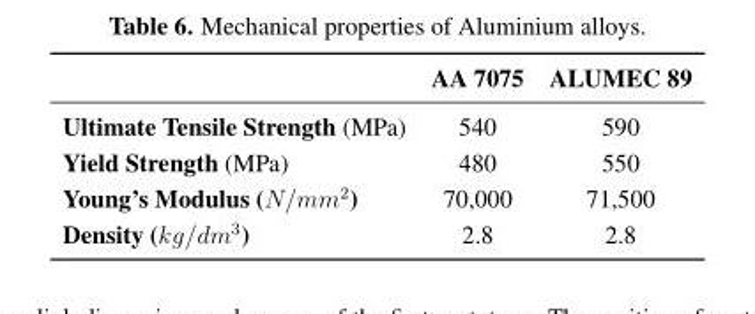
<table><thead><tr><td></td><td>AA 7075</td><td>ALUMEC 89</td></tr></thead><tbody><tr><td>Ultimate Tensile Strength (MPa)</td><td>540</td><td>590</td></tr><tr><td>Yield Strength (MPa)</td><td>480</td><td>550</td></tr><tr><td>Young’s Modulus (N/mm<sup>2</sup>)</td><td>70,000</td><td>71,500</td></tr><tr><td>Density (kg/dm<sup>3</sup>)</td><td>2.8</td><td>2.8</td></tr></tbody></table>